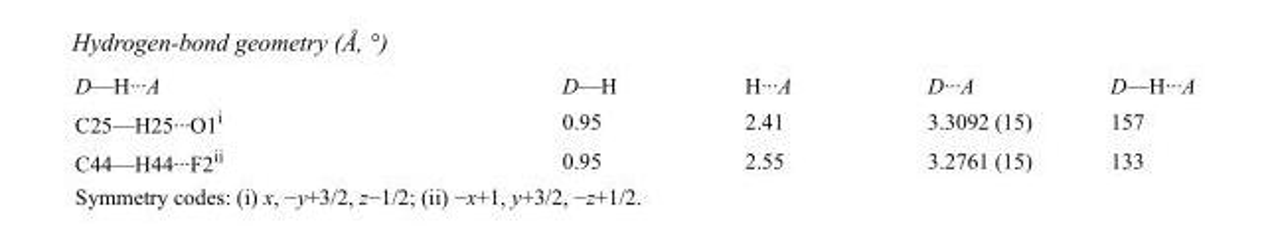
<table><tbody><tr><td>D—H···A</td><td>D—H</td><td>H···A</td><td>D···A</td><td>D—H···A</td></tr><tr><td>C25—H25···O1<sup>i</sup></td><td>0.95</td><td>2.41</td><td>3.3092 (15)</td><td>157</td></tr><tr><td>C44—H44···F2<sup>ii</sup></td><td>0.95</td><td>2.55</td><td>3.2761 (15)</td><td>133</td></tr></tbody></table>